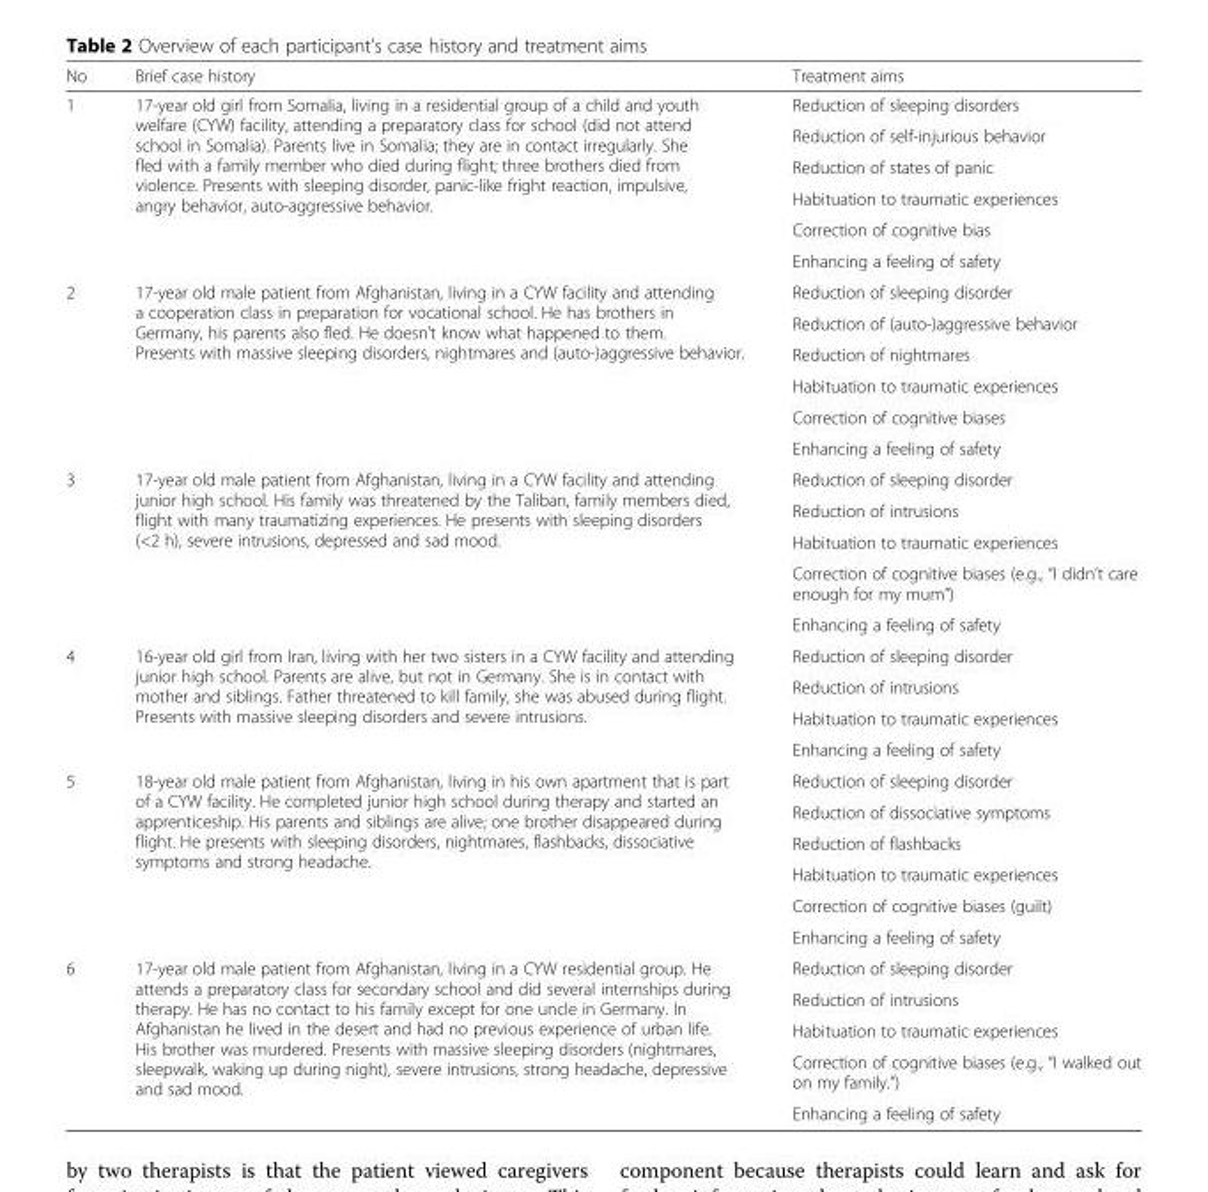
<table><thead><tr><td>No</td><td>Brief case history</td><td>Treatment aims</td></tr></thead><tbody><tr><td rowspan="6">1</td><td rowspan="6">17-year old girl from Somalia, living in a residential group of a child and youth welfare (CYW) facility, attending a preparatory class for school (did not attend school in Somalia). Parents live in Somalia; they are in contact irregularly. She fled with a family member who died during flight; three brothers died from violence. Presents with sleeping disorder, panic-like fright reaction, impulsive, angry behavior, auto-aggressive behavior.</td><td>Reduction of sleeping disorders</td></tr><tr><td>Reduction of self-injurious behavior</td></tr><tr><td>Reduction of states of panic</td></tr><tr><td>Habituation to traumatic experiences</td></tr><tr><td>Correction of cognitive bias</td></tr><tr><td>Enhancing a feeling of safety</td></tr><tr><td rowspan="6">2</td><td rowspan="6">17-year old male patient from Afghanistan, living in a CYW facility and attending a cooperation class in preparation for vocational school. He has brothers in Germany, his parents also fled. He doesn’t know what happened to them. Presents with massive sleeping disorders, nightmares and (auto-)aggressive behavior.</td><td>Reduction of sleeping disorder</td></tr><tr><td>Reduction of (auto-)aggressive behavior</td></tr><tr><td>Reduction of nightmares</td></tr><tr><td>Habituation to traumatic experiences</td></tr><tr><td>Correction of cognitive biases</td></tr><tr><td>Enhancing a feeling of safety</td></tr><tr><td rowspan="5">3</td><td rowspan="5">17-year old male patient from Afghanistan, living in a CYW facility and attending junior high school. His family was threatened by the Taliban, family members died, flight with many traumatizing experiences. He presents with sleeping disorders (&lt;2 h), severe intrusions, depressed and sad mood.</td><td>Reduction of sleeping disorder</td></tr><tr><td>Reduction of intrusions</td></tr><tr><td>Habituation to traumatic experiences</td></tr><tr><td>Correction of cognitive biases (e.g., “I didn’t care enough for my mum”)</td></tr><tr><td>Enhancing a feeling of safety</td></tr><tr><td rowspan="4">4</td><td rowspan="4">16-year old girl from Iran, living with her two sisters in a CYW facility and attending junior high school. Parents are alive, but not in Germany. She is in contact with mother and siblings. Father threatened to kill family, she was abused during flight. Presents with massive sleeping disorders and severe intrusions.</td><td>Reduction of sleeping disorder</td></tr><tr><td>Reduction of intrusions</td></tr><tr><td>Habituation to traumatic experiences</td></tr><tr><td>Enhancing a feeling of safety</td></tr><tr><td rowspan="6">5</td><td rowspan="6">18-year old male patient from Afghanistan, living in his own apartment that is part of a CYW facility. He completed junior high school during therapy and started an apprenticeship. His parents and siblings are alive; one brother disappeared during flight. He presents with sleeping disorders, nightmares, flashbacks, dissociative symptoms and strong headache.</td><td>Reduction of sleeping disorder</td></tr><tr><td>Reduction of dissociative symptoms</td></tr><tr><td>Reduction of flashbacks</td></tr><tr><td>Habituation to traumatic experiences</td></tr><tr><td>Correction of cognitive biases (guilt)</td></tr><tr><td>Enhancing a feeling of safety</td></tr><tr><td rowspan="5">6</td><td rowspan="5">17-year old male patient from Afghanistan, living in a CYW residential group. He attends a preparatory class for secondary school and did several internships during therapy. He has no contact to his family except for one uncle in Germany. In Afghanistan he lived in the desert and had no previous experience of urban life. His brother was murdered. Presents with massive sleeping disorders (nightmares, sleepwalk, waking up during night), severe intrusions, strong headache, depressive and sad mood.</td><td>Reduction of sleeping disorder</td></tr><tr><td>Reduction of intrusions</td></tr><tr><td>Habituation to traumatic experiences</td></tr><tr><td>Correction of cognitive biases (e.g., “I walked out on my family.”)</td></tr><tr><td>Enhancing a feeling of safety</td></tr></tbody></table>